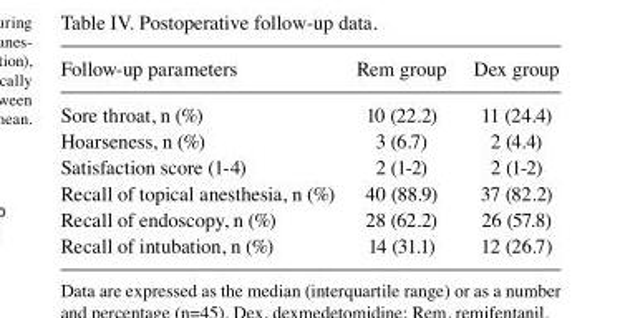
<table><thead><tr><td>Follow‑up parameters</td><td>Rem group</td><td>Dex group</td></tr></thead><tbody><tr><td>Sore throat, n (%)</td><td>10 (22.2)</td><td>11 (24.4)</td></tr><tr><td>Hoarseness, n (%)</td><td>3 (6.7)</td><td>2 (4.4)</td></tr><tr><td>Satisfaction score (1‑4)</td><td>2 (1‑2)</td><td>2 (1‑2)</td></tr><tr><td>Recall of topical anesthesia, n (%)</td><td>40 (88.9)</td><td>37 (82.2)</td></tr><tr><td>Recall of endoscopy, n (%)</td><td>28 (62.2)</td><td>26 (57.8)</td></tr><tr><td>Recall of intubation, n (%)</td><td>14 (31.1)</td><td>12 (26.7)</td></tr></tbody></table>